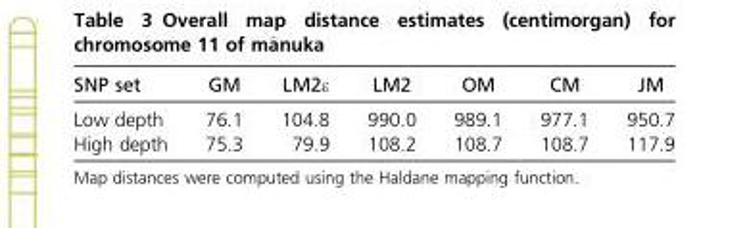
<table><thead><tr><td>SNP set</td><td>GM</td><td>LM2ε</td><td>LM2</td><td>OM</td><td>CM</td><td>JM</td></tr></thead><tbody><tr><td>Low depth</td><td>76.1</td><td>104.8</td><td>990.0</td><td>989.1</td><td>977.1</td><td>950.7</td></tr><tr><td>High depth</td><td>75.3</td><td>79.9</td><td>108.2</td><td>108.7</td><td>108.7</td><td>117.9</td></tr></tbody></table>